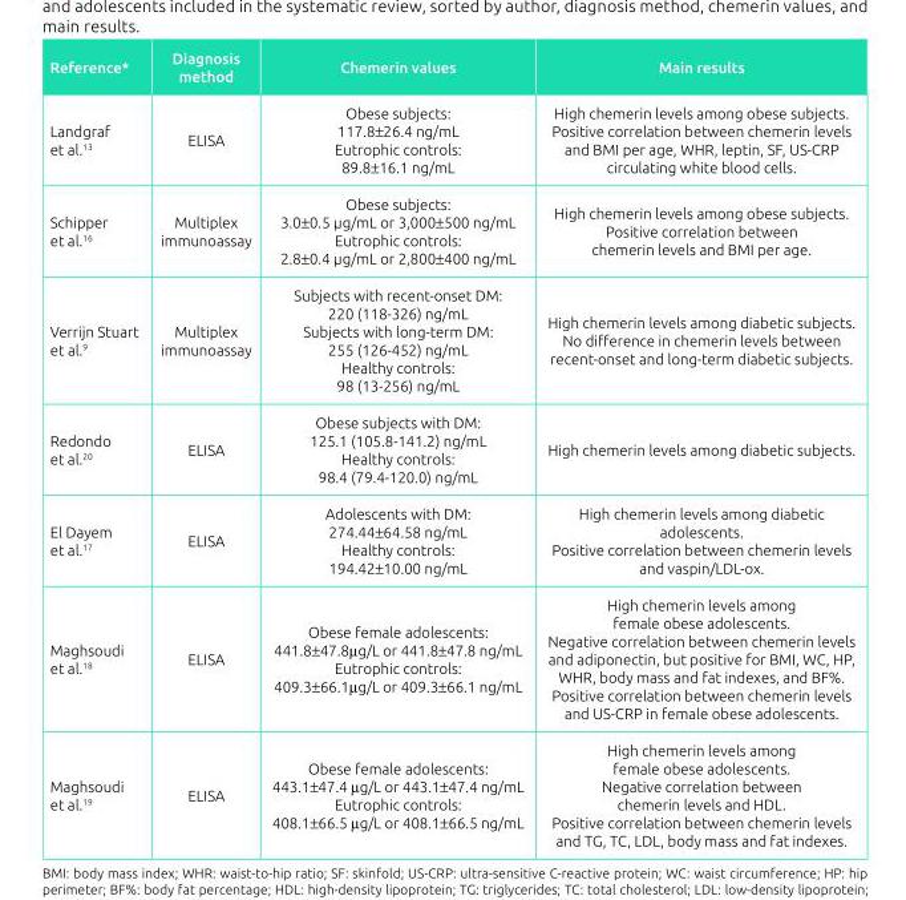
<table><thead><tr><td>Reference*</td><td>Diagnosis method</td><td>Chemerin values</td><td>Main results</td></tr></thead><tbody><tr><td>Landgraf et al.<sup>13</sup></td><td>ELISA</td><td>Obese subjects: 117.8±26.4 ng/mL Eutrophic controls: 89.8±16.1 ng/mL</td><td>High chemerin levels among obese subjects. Positive correlation between chemerin levels and BMI per age, WHR, leptin, SF, US-CRP circulating white blood cells.</td></tr><tr><td>Schipper et al.<sup>16</sup></td><td>Multiplex immunoassay</td><td>Obese subjects: 3.0±0.5 µg/mL or 3,000±500 ng/mL Eutrophic controls: 2.8±0.4 µg/mL or 2,800±400 ng/mL</td><td>High chemerin levels among obese subjects. Positive correlation between chemerin levels and BMI per age.</td></tr><tr><td>Verrijn Stuart et al.<sup>9</sup></td><td>Multiplex immunoassay</td><td>Subjects with recent-onset DM: 220 (118-326) ng/mL Subjects with long-term DM: 255 (126-452) ng/mL Healthy controls: 98 (13-256) ng/mL</td><td>High chemerin levels among diabetic subjects. No difference in chemerin levels between recent-onset and long-term diabetic subjects.</td></tr><tr><td>Redondo et al.<sup>20</sup></td><td>ELISA</td><td>Obese subjects with DM: 125.1 (105.8-141.2) ng/mL Healthy controls: 98.4 (79.4-120.0) ng/mL</td><td>High chemerin levels among diabetic subjects.</td></tr><tr><td>El Dayem et al.<sup>17</sup></td><td>ELISA</td><td>Adolescents with DM: 274.44±64.58 ng/mL Healthy controls: 194.42±10.00 ng/mL</td><td>High chemerin levels among diabetic adolescents. Positive correlation between chemerin levels and vaspin/LDL-ox.</td></tr><tr><td>Maghsoudi et al.<sup>18</sup></td><td>ELISA</td><td>Obese female adolescents: 441.8±47.8μg/L or 441.8±47.8 ng/mL Eutrophic controls: 409.3±66.1μg/L or 409.3±66.1 ng/mL</td><td>High chemerin levels among female obese adolescents. Negative correlation between chemerin levels and adiponectin, but positive for BMI, WC, HP, WHR, body mass and fat indexes, and BF%. Positive correlation between chemerin levels and US-CRP in female obese adolescents.</td></tr><tr><td>Maghsoudi et al.<sup>19</sup></td><td>ELISA</td><td>Obese female adolescents: 443.1±47.4 μg/L or 443.1±47.4 ng/mL Eutrophic controls: 408.1±66.5 μg/L or 408.1±66.5 ng/mL</td><td>High chemerin levels among female obese adolescents. Negative correlation between chemerin levels and HDL. Positive correlation between chemerin levels and TG, TC, LDL, body mass and fat indexes.</td></tr></tbody></table>